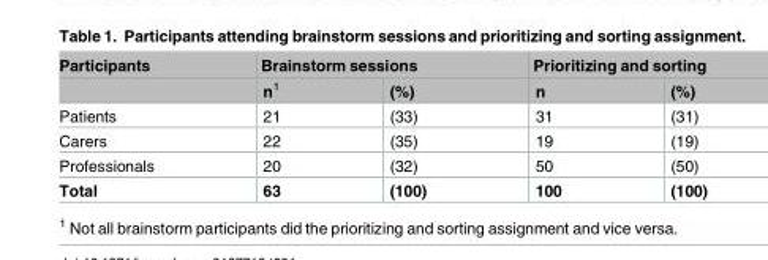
<table><thead><tr><td rowspan="2">Participants</td><td colspan="2">Brainstorm sessions</td><td colspan="2">Prioritizing and sorting</td></tr><tr><td>n<sup>1</sup></td><td>(%)</td><td>n</td><td>(%)</td></tr></thead><tbody><tr><td>Patients</td><td>21</td><td>(33)</td><td>31</td><td>(31)</td></tr><tr><td>Carers</td><td>22</td><td>(35)</td><td>19</td><td>(19)</td></tr><tr><td>Professionals</td><td>20</td><td>(32)</td><td>50</td><td>(50)</td></tr><tr><td>Total</td><td>63</td><td>(100)</td><td>100</td><td>(100)</td></tr></tbody></table>